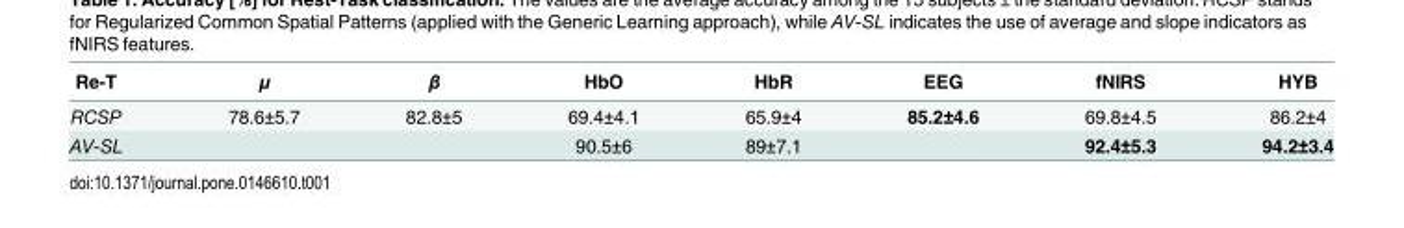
<table><thead><tr><td>Re-T</td><td>μ</td><td>β</td><td>HbO</td><td>HbR</td><td>EEG</td><td>fNIRS</td><td>HYB</td></tr></thead><tbody><tr><td>RCSP</td><td>78.6±5.7</td><td>82.8±5</td><td>69.4±4.1</td><td>65.9±4</td><td>85.2±4.6</td><td>69.8±4.5</td><td>86.2±4</td></tr><tr><td>AV-SL</td><td></td><td></td><td>90.5±6</td><td>89±7.1</td><td></td><td>92.4±5.3</td><td>94.2±3.4</td></tr></tbody></table>